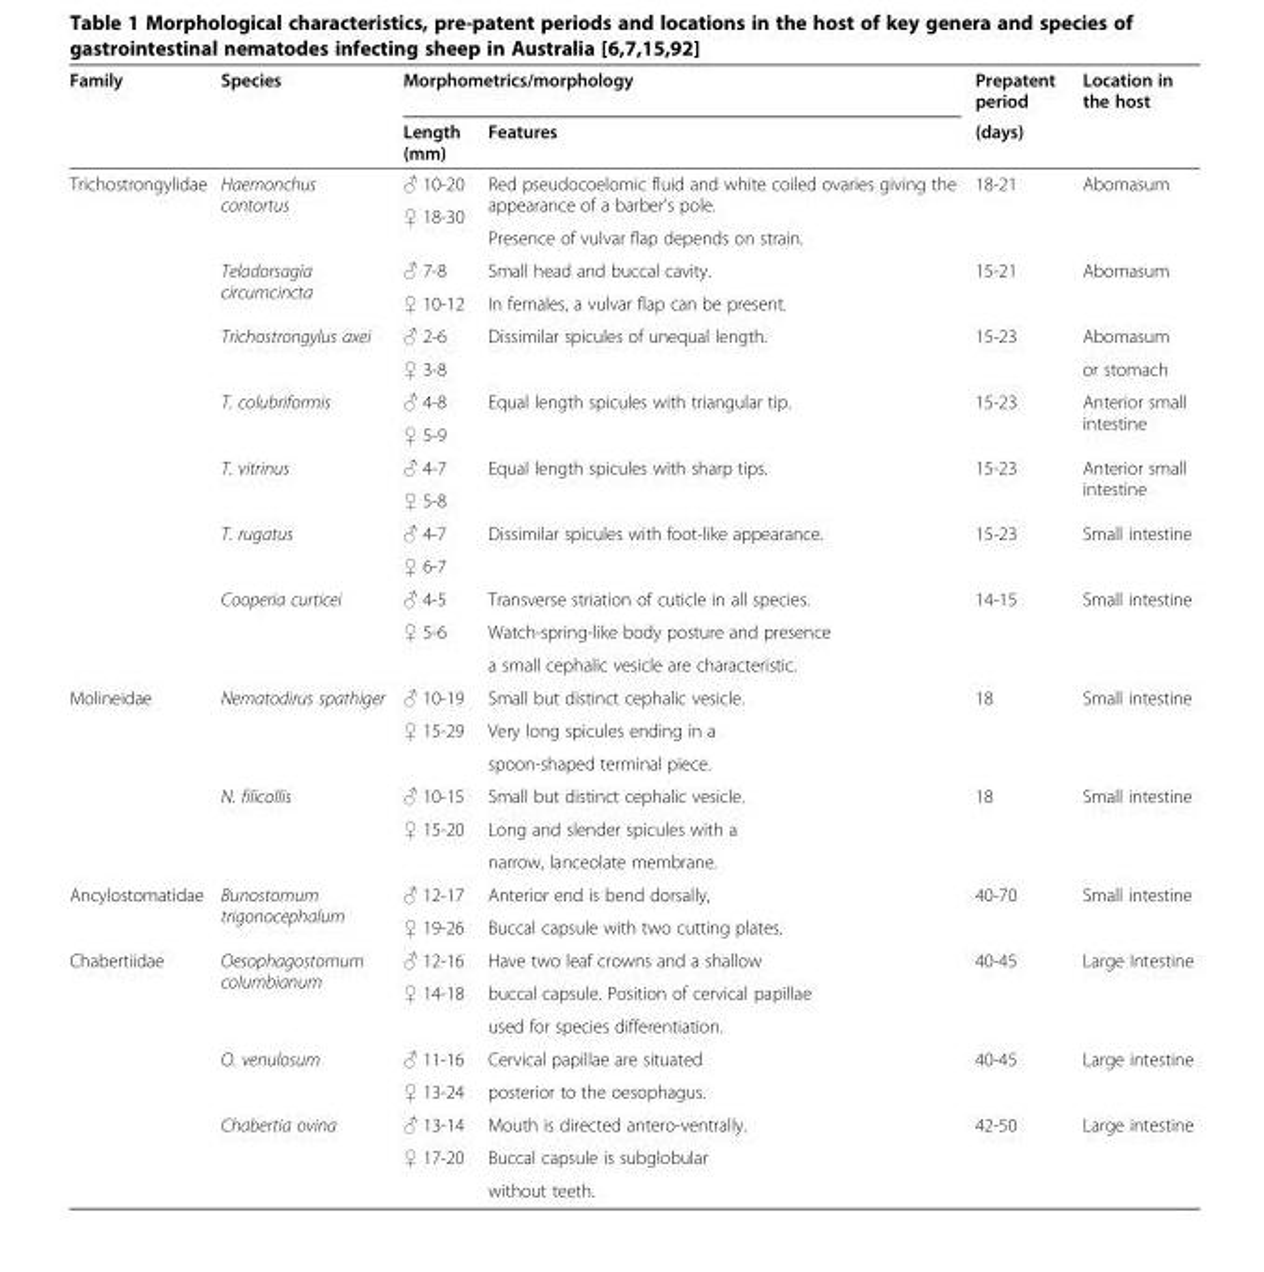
<table><thead><tr><td rowspan="2">Family</td><td rowspan="2">Species</td><td colspan="2">Morphometrics/morphology</td><td rowspan="2">Prepatent period (days)</td><td rowspan="2">Location in the host</td></tr><tr><td>Length (mm)</td><td>Features</td></tr></thead><tbody><tr><td rowspan="16">Trichostrongylidae</td><td rowspan="3">Haemonchus contortus</td><td>♂ 10-20</td><td rowspan="2">Red pseudocoelomic fluid and white coiled ovaries giving the appearance of a barber&#x27;s pole.</td><td rowspan="3">18-21</td><td rowspan="3">Abomasum</td></tr><tr><td rowspan="2">♀ 18-30</td></tr><tr><td>Presence of vulvar flap depends on strain.</td></tr><tr><td rowspan="2">Teladorsagia circumcincta</td><td>♂ 7-8</td><td>Small head and buccal cavity.</td><td rowspan="2">15-21</td><td rowspan="2">Abomasum</td></tr><tr><td>♀ 10-12</td><td>In females, a vulvar flap can be present.</td></tr><tr><td rowspan="2">Trichostrongylus axei</td><td>♂ 2-6</td><td rowspan="2">Dissimilar spicules of unequal length.</td><td rowspan="2">15-23</td><td>Abomasum</td></tr><tr><td>♀ 3-8</td><td>or stomach</td></tr><tr><td rowspan="2">T. colubriformis</td><td>♂ 4-8</td><td>Equal length spicules with triangular tip.</td><td rowspan="2">15-23</td><td rowspan="2">Anterior small intestine</td></tr><tr><td>♀ 5-9</td><td></td></tr><tr><td rowspan="2">T. vitrinus</td><td>♂ 4-7</td><td>Equal length spicules with sharp tips.</td><td rowspan="2">15-23</td><td rowspan="2">Anterior small intestine</td></tr><tr><td>♀ 5-8</td><td></td></tr><tr><td rowspan="2">T. rugatus</td><td>♂ 4-7</td><td>Dissimilar spicules with foot-like appearance.</td><td rowspan="2">15-23</td><td rowspan="2">Small intestine</td></tr><tr><td>♀ 6-7</td><td></td></tr><tr><td rowspan="3">Cooperia curticei</td><td>♂ 4-5</td><td>Transverse striation of cuticle in all species.</td><td rowspan="3">14-15</td><td rowspan="3">Small intestine</td></tr><tr><td rowspan="2">♀ 5-6</td><td>Watch-spring-like body posture and presence</td></tr><tr><td>a small cephalic vesicle are characteristic.</td></tr><tr><td rowspan="6">Molineidae</td><td rowspan="3">Nematodirus spathiger</td><td>♂ 10-19</td><td>Small but distinct cephalic vesicle.</td><td rowspan="3">18</td><td rowspan="3">Small intestine</td></tr><tr><td rowspan="2">♀ 15-29</td><td>Very long spicules ending in a</td></tr><tr><td>spoon-shaped terminal piece.</td></tr><tr><td rowspan="3">N. filicollis</td><td>♂ 10-15</td><td>Small but distinct cephalic vesicle.</td><td rowspan="3">18</td><td rowspan="3">Small intestine</td></tr><tr><td rowspan="2">♀ 15-20</td><td>Long and slender spicules with a</td></tr><tr><td>narrow, lanceolate membrane.</td></tr><tr><td rowspan="2">Ancylostomatidae</td><td rowspan="2">Bunostomum trigonocephalum</td><td>♂ 12-17</td><td>Anterior end is bend dorsally,</td><td rowspan="2">40-70</td><td rowspan="2">Small intestine</td></tr><tr><td>♀ 19-26</td><td>Buccal capsule with two cutting plates.</td></tr><tr><td rowspan="8">Chabertiidae</td><td rowspan="3">Oesophagostomum columbianum</td><td>♂ 12-16</td><td>Have two leaf crowns and a shallow</td><td rowspan="3">40-45</td><td rowspan="3">Large Intestine</td></tr><tr><td rowspan="2">♀ 14-18</td><td>buccal capsule. Position of cervical papillae</td></tr><tr><td>used for species differentiation.</td></tr><tr><td rowspan="2">O. venulosum</td><td>♂ 11-16</td><td>Cervical papillae are situated</td><td rowspan="2">40-45</td><td rowspan="2">Large intestine</td></tr><tr><td>♀ 13-24</td><td>posterior to the oesophagus.</td></tr><tr><td rowspan="2">Chabertia ovina</td><td>♂ 13-14</td><td>Mouth is directed antero-ventrally.</td><td rowspan="2">42-50</td><td rowspan="2">Large intestine</td></tr><tr><td>♀ 17-20</td><td>Buccal capsule is subglobular</td></tr><tr><td></td><td></td><td>without teeth.</td><td></td><td></td></tr></tbody></table>